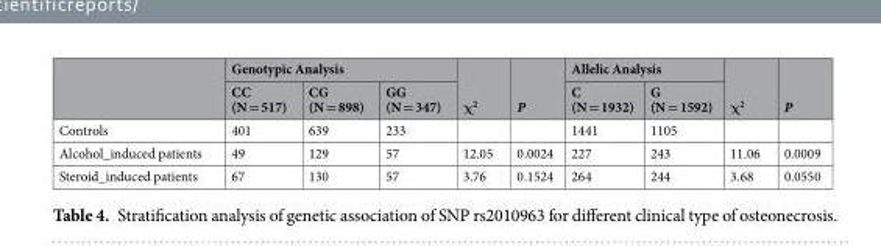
<table><thead><tr><td rowspan="2"></td><td colspan="3">Genotypic Analysis</td><td rowspan="2">χ<sup>2</sup></td><td rowspan="2">P</td><td colspan="2">Allelic Analysis</td><td rowspan="2">χ<sup>2</sup></td><td rowspan="2">P</td></tr><tr><td>CC (N = 517)</td><td>CG (N = 898)</td><td>GG (N = 347)</td><td>C (N = 1932)</td><td>G (N = 1592)</td></tr></thead><tbody><tr><td>Controls</td><td>401</td><td>639</td><td>233</td><td></td><td></td><td>1441</td><td>1105</td><td></td><td></td></tr><tr><td>Alcohol_induced patients</td><td>49</td><td>129</td><td>57</td><td>12.05</td><td>0.0024</td><td>227</td><td>243</td><td>11.06</td><td>0.0009</td></tr><tr><td>Steroid_induced patients</td><td>67</td><td>130</td><td>57</td><td>3.76</td><td>0.1524</td><td>264</td><td>244</td><td>3.68</td><td>0.0550</td></tr></tbody></table>